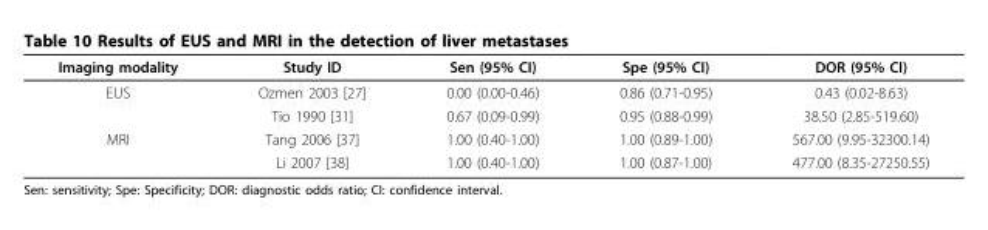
<table><thead><tr><td>Imaging modality</td><td>Study ID</td><td>Sen (95% CI)</td><td>Spe (95% CI)</td><td>DOR (95% CI)</td></tr></thead><tbody><tr><td rowspan="2">EUS</td><td>Ozmen 2003 [27]</td><td>0.00 (0.00-0.46)</td><td>0.86 (0.71-0.95)</td><td>0.43 (0.02-8.63)</td></tr><tr><td>Tio 1990 [31]</td><td>0.67 (0.09-0.99)</td><td>0.95 (0.88-0.99)</td><td>38.50 (2.85-519.60)</td></tr><tr><td rowspan="2">MRI</td><td>Tang 2006 [37]</td><td>1.00 (0.40-1.00)</td><td>1.00 (0.89-1.00)</td><td>567.00 (9.95-32300.14)</td></tr><tr><td>Li 2007 [38]</td><td>1.00 (0.40-1.00)</td><td>1.00 (0.87-1.00)</td><td>477.00 (8.35-27250.55)</td></tr></tbody></table>